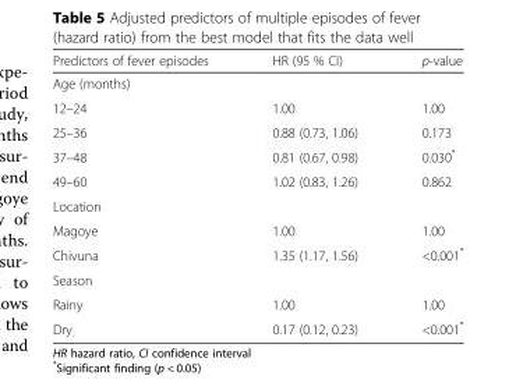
<table><thead><tr><td>Predictors of fever episodes</td><td>HR (95 % CI)</td><td>p-value</td></tr></thead><tbody><tr><td colspan="3">Age (months)</td></tr><tr><td>12–24</td><td>1.00</td><td>1.00</td></tr><tr><td>25–36</td><td>0.88 (0.73, 1.06)</td><td>0.173</td></tr><tr><td>37–48</td><td>0.81 (0.67, 0.98)</td><td>0.030*</td></tr><tr><td>49–60</td><td>1.02 (0.83, 1.26)</td><td>0.862</td></tr><tr><td colspan="3">Location</td></tr><tr><td>Magoye</td><td>1.00</td><td>1.00</td></tr><tr><td>Chivuna</td><td>1.35 (1.17, 1.56)</td><td>&lt;0.001*</td></tr><tr><td colspan="3">Season</td></tr><tr><td>Rainy</td><td>1.00</td><td>1.00</td></tr><tr><td>Dry</td><td>0.17 (0.12, 0.23)</td><td>&lt;0.001*</td></tr></tbody></table>